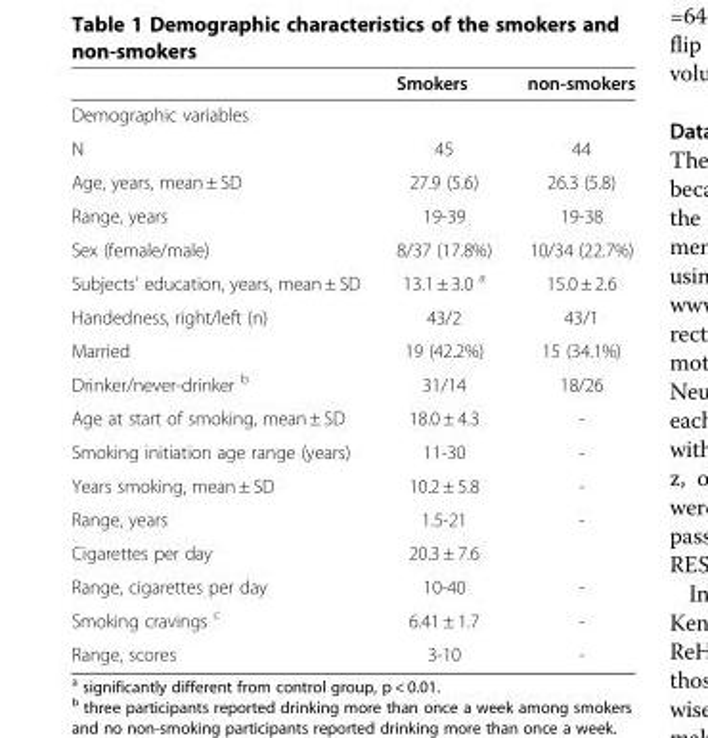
<table><thead><tr><td></td><td>Smokers</td><td>non-smokers</td></tr></thead><tbody><tr><td colspan="3">Demographic variables</td></tr><tr><td>N</td><td>45</td><td>44</td></tr><tr><td>Age, years, mean ± SD</td><td>27.9 (5.6)</td><td>26.3 (5.8)</td></tr><tr><td>Range, years</td><td>19-39</td><td>19-38</td></tr><tr><td>Sex (female/male)</td><td>8/37 (17.8%)</td><td>10/34 (22.7%)</td></tr><tr><td>Subjects’ education, years, mean ± SD</td><td>13.1 ± 3.0 <sup>a</sup></td><td>15.0 ± 2.6</td></tr><tr><td>Handedness, right/left (n)</td><td>43/2</td><td>43/1</td></tr><tr><td>Married</td><td>19 (42.2%)</td><td>15 (34.1%)</td></tr><tr><td>Drinker/never-drinker <sup>b</sup></td><td>31/14</td><td>18/26</td></tr><tr><td>Age at start of smoking, mean ± SD</td><td>18.0 ± 4.3</td><td>-</td></tr><tr><td>Smoking initiation age range (years)</td><td>11-30</td><td>-</td></tr><tr><td>Years smoking, mean ± SD</td><td>10.2 ± 5.8</td><td>-</td></tr><tr><td>Range, years</td><td>1.5-21</td><td>-</td></tr><tr><td>Cigarettes per day</td><td>20.3 ± 7.6</td><td></td></tr><tr><td>Range, cigarettes per day</td><td>10-40</td><td>-</td></tr><tr><td>Smoking cravings <sup>c</sup></td><td>6.41 ± 1.7</td><td>-</td></tr><tr><td>Range, scores</td><td>3-10</td><td>-</td></tr></tbody></table>